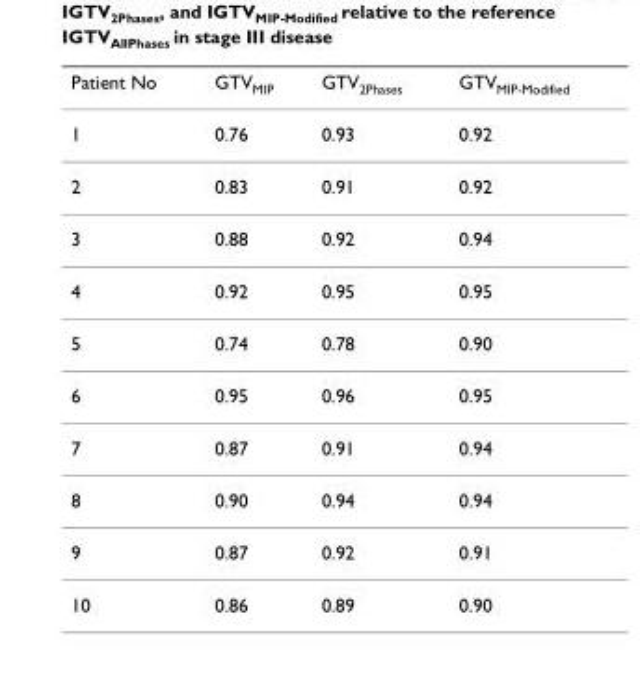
<table><thead><tr><td>Patient No</td><td>GTV<sub>MIP</sub></td><td>GTV<sub>2Phases</sub></td><td>GTV<sub>MIP-Modified</sub></td></tr></thead><tbody><tr><td>1</td><td>0.76</td><td>0.93</td><td>0.92</td></tr><tr><td>2</td><td>0.83</td><td>0.91</td><td>0.92</td></tr><tr><td>3</td><td>0.88</td><td>0.92</td><td>0.94</td></tr><tr><td>4</td><td>0.92</td><td>0.95</td><td>0.95</td></tr><tr><td>5</td><td>0.74</td><td>0.78</td><td>0.90</td></tr><tr><td>6</td><td>0.95</td><td>0.96</td><td>0.95</td></tr><tr><td>7</td><td>0.87</td><td>0.91</td><td>0.94</td></tr><tr><td>8</td><td>0.90</td><td>0.94</td><td>0.94</td></tr><tr><td>9</td><td>0.87</td><td>0.92</td><td>0.91</td></tr><tr><td>10</td><td>0.86</td><td>0.89</td><td>0.90</td></tr></tbody></table>